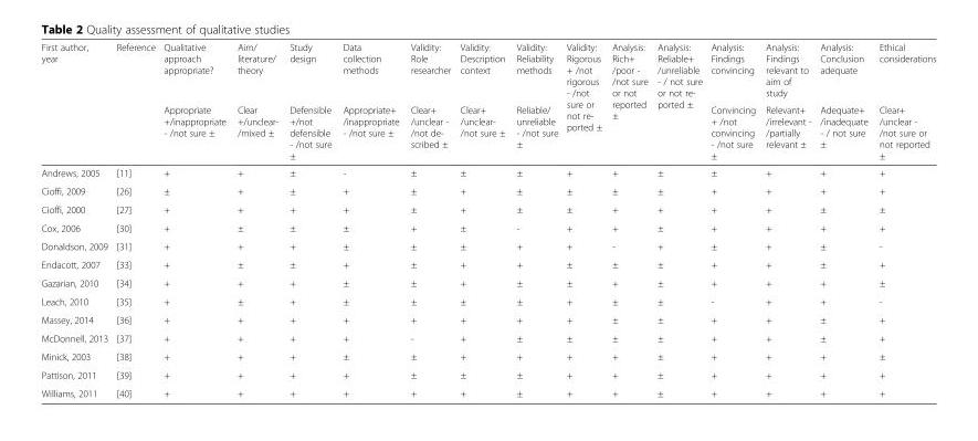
<table><thead><tr><td rowspan="2">First author, year</td><td rowspan="2">Reference</td><td rowspan="2">Qualitative approach appropriate? Appropriate +/inappropriate - /not sure ±</td><td rowspan="2">Aim/ literature/ theory Clear +/unclear- /mixed ±</td><td rowspan="2">Study design Defensible +/not defensible - /not sure ±</td><td rowspan="2">Data collection methods Appropriate+ /inappropriate - /not sure ±</td><td rowspan="2">Validity: Role researcher Clear+ /unclear - /not de- scribed ±</td><td rowspan="2">Validity: Description context Clear+ /unclear- /not sure ±</td><td rowspan="2">Validity: Reliability methods Reliable/ unreliable - /not sure ±</td><td rowspan="2">Validity: Rigorous + /not rigorous - /not sure or not re- ported ±</td><td rowspan="2">Analysis: Rich+ /poor - /not sure or not reported ±</td><td rowspan="2">Analysis: Reliable+ /unreliable - / not sure or not re- ported ±</td><td rowspan="2">Analysis: Findings convincing Convincing + /not convincing - /not sure ±</td><td rowspan="2">Analysis: Findings relevant to aim of study Relevant+ /irrelevant - /partially relevant ±</td><td rowspan="2">Analysis: Conclusion adequate Adequate+ /inadequate - / not sure ±</td><td rowspan="2">Ethical considerations Clear+ /unclear - /not sure or not reported ±</td></tr><tr></tr></thead><tbody><tr><td>Andrews, 2005</td><td>[11]</td><td>+</td><td>+</td><td>±</td><td>-</td><td>±</td><td>±</td><td>±</td><td>+</td><td>+</td><td>±</td><td>±</td><td>+</td><td>+</td><td>+</td></tr><tr><td>Cioffi, 2009</td><td>[26]</td><td>±</td><td>+</td><td>±</td><td>+</td><td>±</td><td>+</td><td>±</td><td>±</td><td>±</td><td>±</td><td>+</td><td>+</td><td>+</td><td>+</td></tr><tr><td>Cioffi, 2000</td><td>[27]</td><td>+</td><td>+</td><td>+</td><td>+</td><td>±</td><td>+</td><td>±</td><td>±</td><td>+</td><td>+</td><td>+</td><td>+</td><td>±</td><td>±</td></tr><tr><td>Cox, 2006</td><td>[30]</td><td>+</td><td>±</td><td>±</td><td>±</td><td>+</td><td>±</td><td>-</td><td>+</td><td>+</td><td>±</td><td>+</td><td>+</td><td>+</td><td>+</td></tr><tr><td>Donaldson, 2009</td><td>[31]</td><td>+</td><td>+</td><td>+</td><td>±</td><td>±</td><td>±</td><td>+</td><td>+</td><td>-</td><td>+</td><td>±</td><td>+</td><td>±</td><td>-</td></tr><tr><td>Endacott, 2007</td><td>[33]</td><td>+</td><td>±</td><td>±</td><td>+</td><td>±</td><td>+</td><td>+</td><td>±</td><td>±</td><td>±</td><td>+</td><td>+</td><td>±</td><td>+</td></tr><tr><td>Gazarian, 2010</td><td>[34]</td><td>+</td><td>+</td><td>+</td><td>±</td><td>±</td><td>+</td><td>±</td><td>±</td><td>+</td><td>±</td><td>+</td><td>+</td><td>+</td><td>±</td></tr><tr><td>Leach, 2010</td><td>[35]</td><td>+</td><td>±</td><td>+</td><td>±</td><td>±</td><td>±</td><td>±</td><td>+</td><td>±</td><td>±</td><td>-</td><td>+</td><td>+</td><td>-</td></tr><tr><td>Massey, 2014</td><td>[36]</td><td>+</td><td>+</td><td>+</td><td>+</td><td>+</td><td>+</td><td>+</td><td>+</td><td>±</td><td>±</td><td>+</td><td>+</td><td>±</td><td>+</td></tr><tr><td>McDonnell, 2013</td><td>[37]</td><td>+</td><td>+</td><td>+</td><td>+</td><td>-</td><td>+</td><td>±</td><td>±</td><td>±</td><td>±</td><td>+</td><td>+</td><td>±</td><td>+</td></tr><tr><td>Minick, 2003</td><td>[38]</td><td>+</td><td>+</td><td>+</td><td>±</td><td>±</td><td>+</td><td>+</td><td>+</td><td>+</td><td>±</td><td>+</td><td>+</td><td>+</td><td>±</td></tr><tr><td>Pattison, 2011</td><td>[39]</td><td>+</td><td>+</td><td>+</td><td>+</td><td>±</td><td>±</td><td>±</td><td>+</td><td>+</td><td>±</td><td>+</td><td>+</td><td>+</td><td>+</td></tr><tr><td>Williams, 2011</td><td>[40]</td><td>+</td><td>+</td><td>+</td><td>+</td><td>+</td><td>+</td><td>±</td><td>+</td><td>+</td><td>±</td><td>+</td><td>+</td><td>+</td><td>+</td></tr></tbody></table>